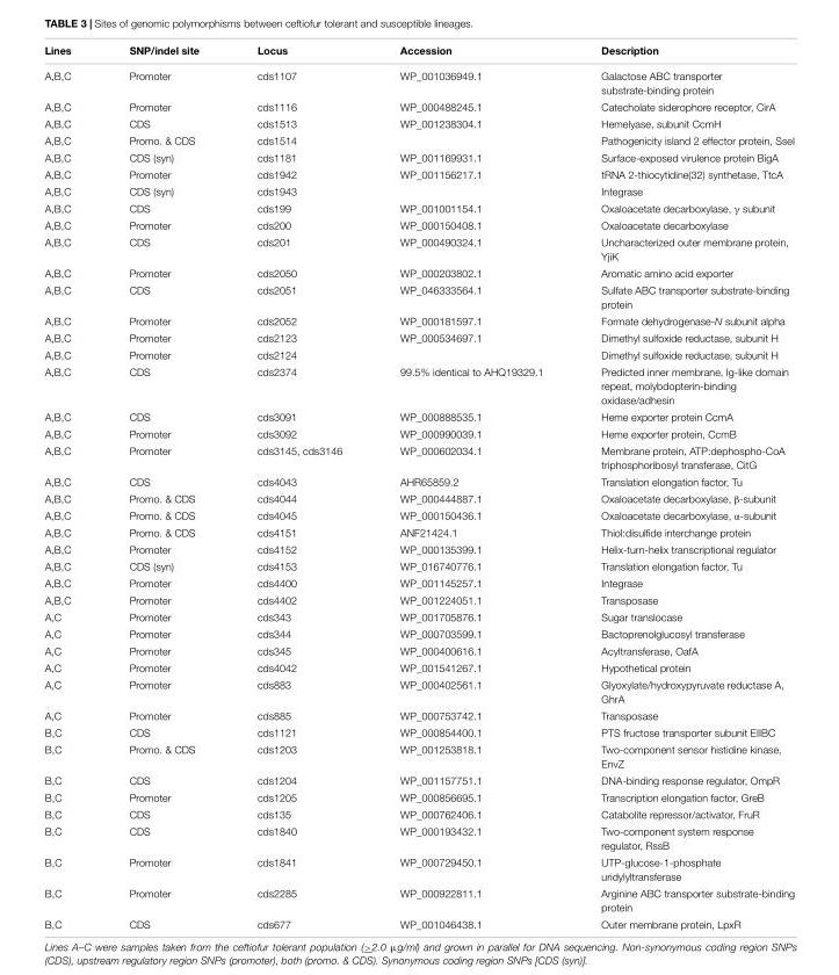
<table><thead><tr><td>Lines</td><td>SNP/indel site</td><td>Locus</td><td>Accession</td><td>Description</td></tr></thead><tbody><tr><td>A,B,C</td><td>Promoter</td><td>cds1107</td><td>WP_001036949.1</td><td>Galactose ABC transporter substrate-binding protein</td></tr><tr><td>A,B,C</td><td>Promoter</td><td>cds1116</td><td>WP_000488245.1</td><td>Catecholate siderophore receptor, CirA</td></tr><tr><td>A,B,C</td><td>CDS</td><td>cds1513</td><td>WP_001238304.1</td><td>Hemelyase, subunit CcmH</td></tr><tr><td>A,B,C</td><td>Promo. &amp; CDS</td><td>cds1514</td><td></td><td>Pathogenicity island 2 effector protein, SseI</td></tr><tr><td>A,B,C</td><td>CDS (syn)</td><td>cds1181</td><td>WP_001169931.1</td><td>Surface-exposed virulence protein BigA</td></tr><tr><td>A,B,C</td><td>Promoter</td><td>cds1942</td><td>WP_001156217.1</td><td>tRNA 2-thiocytidine(32) synthetase, TtcA</td></tr><tr><td>A,B,C</td><td>CDS (syn)</td><td>cds1943</td><td></td><td>Integrase</td></tr><tr><td>A,B,C</td><td>CDS</td><td>cds199</td><td>WP_001001154.1</td><td>Oxaloacetate decarboxylase, γ subunit</td></tr><tr><td>A,B,C</td><td>Promoter</td><td>cds200</td><td>WP_000150408.1</td><td>Oxaloacetate decarboxylase</td></tr><tr><td>A,B,C</td><td>CDS</td><td>cds201</td><td>WP_000490324.1</td><td>Uncharacterized outer membrane protein, YjiK</td></tr><tr><td>A,B,C</td><td>Promoter</td><td>cds2050</td><td>WP_000203802.1</td><td>Aromatic amino acid exporter</td></tr><tr><td>A,B,C</td><td>CDS</td><td>cds2051</td><td>WP_046333564.1</td><td>Sulfate ABC transporter substrate-binding protein</td></tr><tr><td>A,B,C</td><td>Promoter</td><td>cds2052</td><td>WP_000181597.1</td><td>Formate dehydrogenase-N subunit alpha</td></tr><tr><td>A,B,C</td><td>Promoter</td><td>cds2123</td><td>WP_000534697.1</td><td>Dimethyl sulfoxide reductase, subunit H</td></tr><tr><td>A,B,C</td><td>Promoter</td><td>cds2124</td><td></td><td>Dimethyl sulfoxide reductase, subunit H</td></tr><tr><td>A,B,C</td><td>CDS</td><td>cds2374</td><td>99.5% identical to AHQ19329.1</td><td>Predicted inner membrane, Ig-like domain repeat, molybdopterin-binding oxidase/adhesin</td></tr><tr><td>A,B,C</td><td>CDS</td><td>cds3091</td><td>WP_000888535.1</td><td>Heme exporter protein CcmA</td></tr><tr><td>A,B,C</td><td>Promoter</td><td>cds3092</td><td>WP_000990039.1</td><td>Heme exporter protein, CcmB</td></tr><tr><td>A,B,C</td><td>Promoter</td><td>cds3145, cds3146</td><td>WP_000602034.1</td><td>Membrane protein, ATP:dephospho-CoA triphosphoribosyl transferase, CitG</td></tr><tr><td>A,B,C</td><td>CDS</td><td>cds4043</td><td>AHR65859.2</td><td>Translation elongation factor, Tu</td></tr><tr><td>A,B,C</td><td>Promo. &amp; CDS</td><td>cds4044</td><td>WP_000444887.1</td><td>Oxaloacetate decarboxylase, β-subunit</td></tr><tr><td>A,B,C</td><td>Promo. &amp; CDS</td><td>cds4045</td><td>WP_000150436.1</td><td>Oxaloacetate decarboxylase, α-subunit</td></tr><tr><td>A,B,C</td><td>Promo. &amp; CDS</td><td>cds4151</td><td>ANF21424.1</td><td>Thiol:disulfide interchange protein</td></tr><tr><td>A,B,C</td><td>Promoter</td><td>cds4152</td><td>WP_000135399.1</td><td>Helix-turn-helix transcriptional regulator</td></tr><tr><td>A,B,C</td><td>CDS (syn)</td><td>cds4153</td><td>WP_016740776.1</td><td>Translation elongation factor, Tu</td></tr><tr><td>A,B,C</td><td>Promoter</td><td>cds4400</td><td>WP_001145257.1</td><td>Integrase</td></tr><tr><td>A,B,C</td><td>Promoter</td><td>cds4402</td><td>WP_001224051.1</td><td>Transposase</td></tr><tr><td>A,C</td><td>Promoter</td><td>cds343</td><td>WP_001705876.1</td><td>Sugar translocase</td></tr><tr><td>A,C</td><td>Promoter</td><td>cds344</td><td>WP_000703599.1</td><td>Bactoprenolglucosyl transferase</td></tr><tr><td>A,C</td><td>Promoter</td><td>cds345</td><td>WP_000400616.1</td><td>Acyltransferase, OafA</td></tr><tr><td>A,C</td><td>Promoter</td><td>cds4042</td><td>WP_001541267.1</td><td>Hypothetical protein</td></tr><tr><td>A,C</td><td>Promoter</td><td>cds883</td><td>WP_000402561.1</td><td>Glyoxylate/hydroxypyruvate reductase A, GhrA</td></tr><tr><td>A,C</td><td>Promoter</td><td>cds885</td><td>WP_000753742.1</td><td>Transposase</td></tr><tr><td>B,C</td><td>CDS</td><td>cds1121</td><td>WP_000854400.1</td><td>PTS fructose transporter subunit EIIBC</td></tr><tr><td>B,C</td><td>Promo. &amp; CDS</td><td>cds1203</td><td>WP_001253818.1</td><td>Two-component sensor histidine kinase, EnvZ</td></tr><tr><td>B,C</td><td>CDS</td><td>cds1204</td><td>WP_001157751.1</td><td>DNA-binding response regulator, OmpR</td></tr><tr><td>B,C</td><td>Promoter</td><td>cds1205</td><td>WP_000856695.1</td><td>Transcription elongation factor, GreB</td></tr><tr><td>B,C</td><td>CDS</td><td>cds135</td><td>WP_000762406.1</td><td>Catabolite repressor/activator, FruR</td></tr><tr><td>B,C</td><td>CDS</td><td>cds1840</td><td>WP_000193432.1</td><td>Two-component system response regulator, RssB</td></tr><tr><td>B,C</td><td>Promoter</td><td>cds1841</td><td>WP_000729450.1</td><td>UTP-glucose-1-phosphate uridylyltransferase</td></tr><tr><td>B,C</td><td>Promoter</td><td>cds2285</td><td>WP_000922811.1</td><td>Arginine ABC transporter substrate-binding protein</td></tr><tr><td>B,C</td><td>CDS</td><td>cds677</td><td>WP_001046438.1</td><td>Outer membrane protein, LpxR</td></tr></tbody></table>